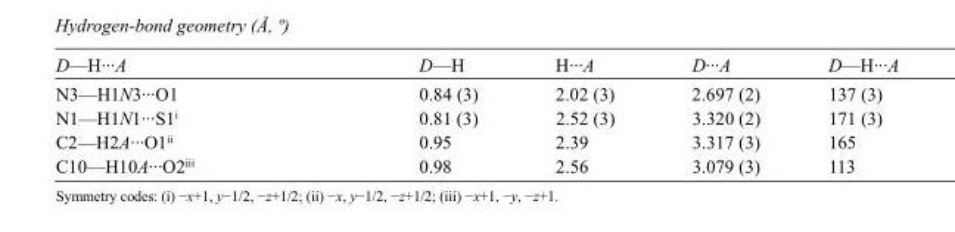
<table><tbody><tr><td>D—H···A</td><td>D—H</td><td>H···A</td><td>D···A</td><td>D—H···A</td></tr><tr><td>N3—H1N3···O1</td><td>0.84 (3)</td><td>2.02 (3)</td><td>2.697 (2)</td><td>137 (3)</td></tr><tr><td>N1—H1N1···S1<sup>i</sup></td><td>0.81 (3)</td><td>2.52 (3)</td><td>3.320 (2)</td><td>171 (3)</td></tr><tr><td>C2—H2A···O1<sup>ii</sup></td><td>0.95</td><td>2.39</td><td>3.317 (3)</td><td>165</td></tr><tr><td>C10—H10A···O2<sup>iii</sup></td><td>0.98</td><td>2.56</td><td>3.079 (3)</td><td>113</td></tr></tbody></table>